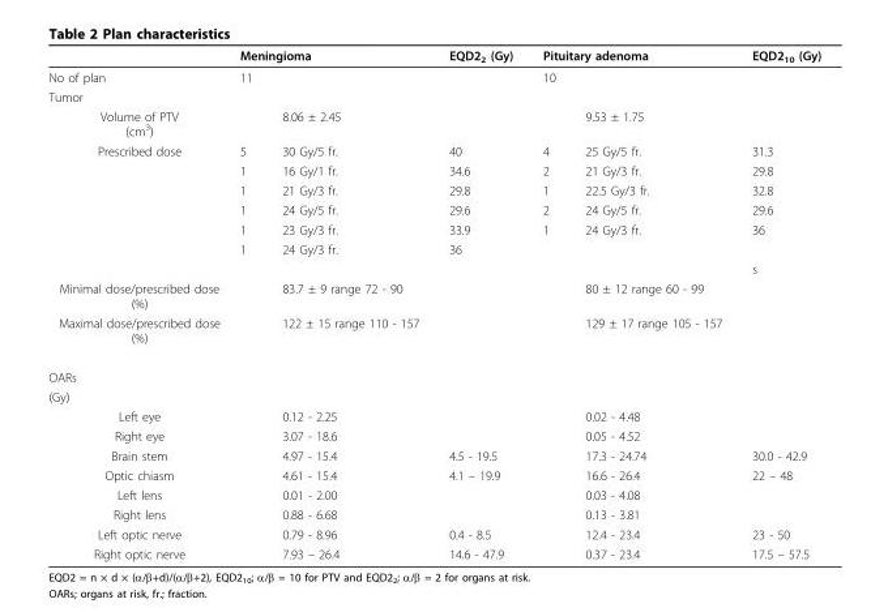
<table><thead><tr><td rowspan="2">No of plan</td><td colspan="2">Meningioma</td><td rowspan="2">EQD2<sub>2</sub> (Gy)</td><td colspan="2">Pituitary adenoma</td><td rowspan="2">EQD2<sub>10</sub> (Gy)</td></tr><tr><td>11</td><td></td><td>10</td><td></td></tr></thead><tbody><tr><td colspan="7">Tumor</td></tr><tr><td>Volume of PTV (cm<sup>3</sup>)</td><td></td><td>8.06 ± 2.45</td><td></td><td></td><td>9.53 ± 1.75</td><td></td></tr><tr><td rowspan="7">Prescribed dose</td><td>5</td><td>30 Gy/5 fr.</td><td>40</td><td>4</td><td>25 Gy/5 fr.</td><td>31.3</td></tr><tr><td>1</td><td>16 Gy/1 fr.</td><td>34.6</td><td>2</td><td>21 Gy/3 fr.</td><td>29.8</td></tr><tr><td>1</td><td>21 Gy/3 fr.</td><td>29.8</td><td>1</td><td>22.5 Gy/3 fr.</td><td>32.8</td></tr><tr><td>1</td><td>24 Gy/5 fr.</td><td>29.6</td><td>2</td><td>24 Gy/5 fr.</td><td>29.6</td></tr><tr><td>1</td><td>23 Gy/3 fr.</td><td>33.9</td><td>1</td><td>24 Gy/3 fr.</td><td>36</td></tr><tr><td>1</td><td>24 Gy/3 fr.</td><td>36</td><td></td><td></td><td></td></tr><tr><td></td><td></td><td></td><td></td><td></td><td>s</td></tr><tr><td>Minimal dose/prescribed dose (%)</td><td></td><td>83.7 ± 9 range 72 - 90</td><td></td><td></td><td>80 ± 12 range 60 - 99</td><td></td></tr><tr><td>Maximal dose/prescribed dose (%)</td><td></td><td>122 ± 15 range 110 - 157</td><td></td><td></td><td>129 ± 17 range 105 - 157</td><td></td></tr><tr><td colspan="7">OARs</td></tr><tr><td colspan="7">(Gy)</td></tr><tr><td>Left eye</td><td></td><td>0.12 - 2.25</td><td></td><td></td><td>0.02 - 4.48</td><td></td></tr><tr><td>Right eye</td><td></td><td>3.07 - 18.6</td><td></td><td></td><td>0.05 - 4.52</td><td></td></tr><tr><td>Brain stem</td><td></td><td>4.97 - 15.4</td><td>4.5 - 19.5</td><td></td><td>17.3 - 24.74</td><td>30.0 - 42.9</td></tr><tr><td>Optic chiasm</td><td></td><td>4.61 - 15.4</td><td>4.1 – 19.9</td><td></td><td>16.6 - 26.4</td><td>22 – 48</td></tr><tr><td>Left lens</td><td></td><td>0.01 - 2.00</td><td></td><td></td><td>0.03 - 4.08</td><td></td></tr><tr><td>Right lens</td><td></td><td>0.88 - 6.68</td><td></td><td></td><td>0.13 - 3.81</td><td></td></tr><tr><td>Left optic nerve</td><td></td><td>0.79 - 8.96</td><td>0.4 - 8.5</td><td></td><td>12.4 - 23.4</td><td>23 - 50</td></tr><tr><td>Right optic nerve</td><td></td><td>7.93 – 26.4</td><td>14.6 - 47.9</td><td></td><td>0.37 - 23.4</td><td>17.5 – 57.5</td></tr></tbody></table>